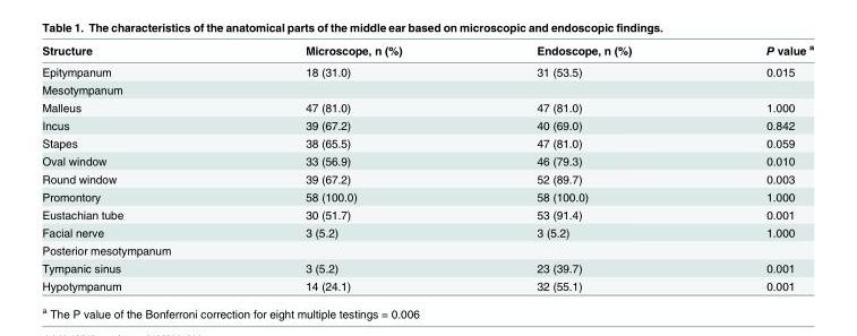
<table><thead><tr><td>Structure</td><td>Microscope, n (%)</td><td>Endoscope, n (%)</td><td>P value <sup>a</sup></td></tr></thead><tbody><tr><td>Epitympanum</td><td>18 (31.0)</td><td>31 (53.5)</td><td>0.015</td></tr><tr><td colspan="4">Mesotympanum</td></tr><tr><td>Malleus</td><td>47 (81.0)</td><td>47 (81.0)</td><td>1.000</td></tr><tr><td>Incus</td><td>39 (67.2)</td><td>40 (69.0)</td><td>0.842</td></tr><tr><td>Stapes</td><td>38 (65.5)</td><td>47 (81.0)</td><td>0.059</td></tr><tr><td>Oval window</td><td>33 (56.9)</td><td>46 (79.3)</td><td>0.010</td></tr><tr><td>Round window</td><td>39 (67.2)</td><td>52 (89.7)</td><td>0.003</td></tr><tr><td>Promontory</td><td>58 (100.0)</td><td>58 (100.0)</td><td>1.000</td></tr><tr><td>Eustachian tube</td><td>30 (51.7)</td><td>53 (91.4)</td><td>0.001</td></tr><tr><td>Facial nerve</td><td>3 (5.2)</td><td>3 (5.2)</td><td>1.000</td></tr><tr><td colspan="4">Posterior mesotympanum</td></tr><tr><td>Tympanic sinus</td><td>3 (5.2)</td><td>23 (39.7)</td><td>0.001</td></tr><tr><td>Hypotympanum</td><td>14 (24.1)</td><td>32 (55.1)</td><td>0.001</td></tr></tbody></table>